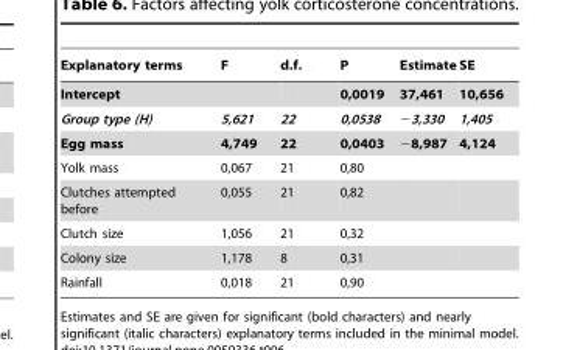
<table><thead><tr><td>Explanatory terms</td><td>F</td><td>d.f.</td><td>P</td><td>Estimate</td><td>SE</td></tr></thead><tbody><tr><td>Intercept</td><td></td><td></td><td>0,0019</td><td>37,461</td><td>10,656</td></tr><tr><td>Group type (H)</td><td>5,621</td><td>22</td><td>0,0538</td><td>−3,330</td><td>1,405</td></tr><tr><td>Egg mass</td><td>4,749</td><td>22</td><td>0,0403</td><td>−8,987</td><td>4,124</td></tr><tr><td>Yolk mass</td><td>0,067</td><td>21</td><td>0,80</td><td></td><td></td></tr><tr><td>Clutches attempted before</td><td>0,055</td><td>21</td><td>0,82</td><td></td><td></td></tr><tr><td>Clutch size</td><td>1,056</td><td>21</td><td>0,32</td><td></td><td></td></tr><tr><td>Colony size</td><td>1,178</td><td>8</td><td>0,31</td><td></td><td></td></tr><tr><td>Rainfall</td><td>0,018</td><td>21</td><td>0,90</td><td></td><td></td></tr></tbody></table>